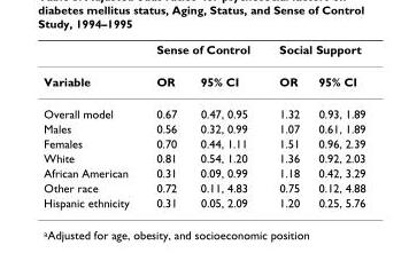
<table><thead><tr><td rowspan="2">Variable</td><td colspan="2">Sense of Control</td><td colspan="2">Social Support</td></tr><tr><td>OR</td><td>95% CI</td><td>OR</td><td>95% CI</td></tr></thead><tbody><tr><td>Overall model</td><td>0.67</td><td>0.47, 0.95</td><td>1.32</td><td>0.93, 1.89</td></tr><tr><td>Males</td><td>0.56</td><td>0.32, 0.99</td><td>1.07</td><td>0.61, 1.89</td></tr><tr><td>Females</td><td>0.70</td><td>0.44, 1.11</td><td>1.51</td><td>0.96, 2.39</td></tr><tr><td>White</td><td>0.81</td><td>0.54, 1.20</td><td>1.36</td><td>0.92, 2.03</td></tr><tr><td>African American</td><td>0.31</td><td>0.09, 0.99</td><td>1.18</td><td>0.42, 3.29</td></tr><tr><td>Other race</td><td>0.72</td><td>0.11, 4.83</td><td>0.75</td><td>0.12, 4.88</td></tr><tr><td>Hispanic ethnicity</td><td>0.31</td><td>0.05, 2.09</td><td>1.20</td><td>0.25, 5.76</td></tr></tbody></table>